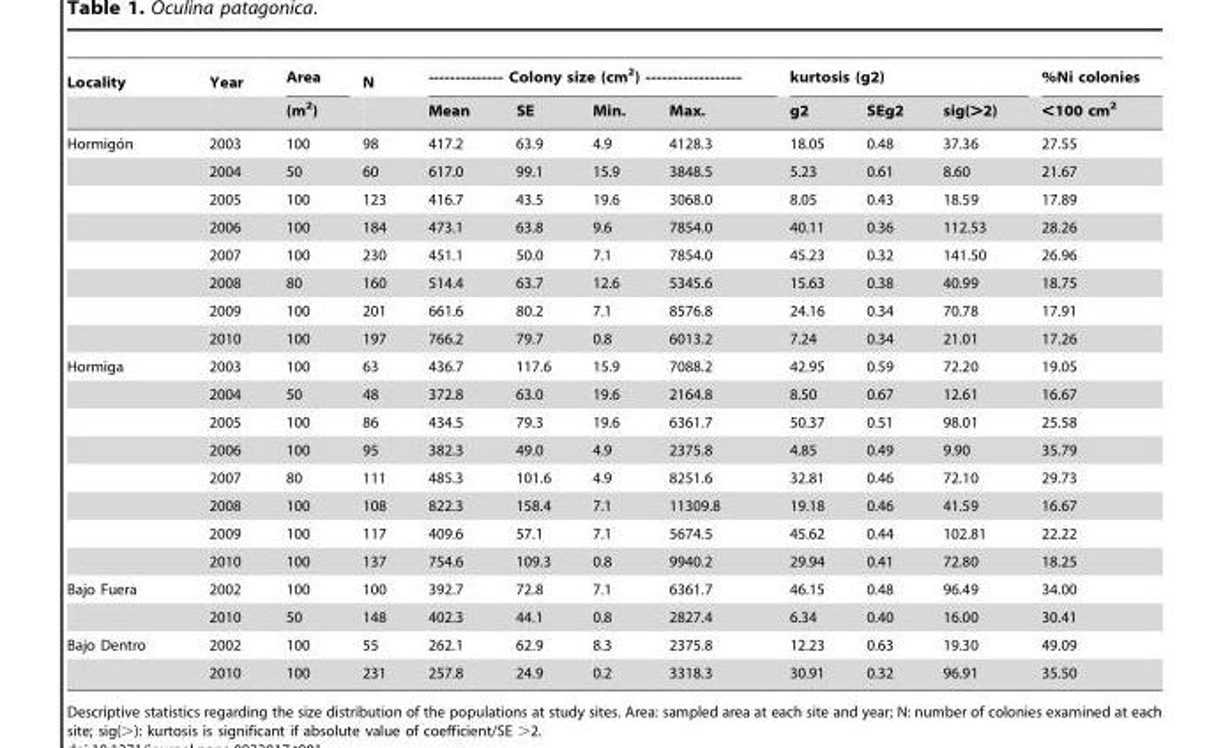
<table><thead><tr><td rowspan="2">Locality</td><td rowspan="2">Year</td><td rowspan="2">Area (m<sup>2</sup>)</td><td rowspan="2">N</td><td colspan="4">-------------- Colony size (cm<sup>2</sup>) ------------------</td><td colspan="3">kurtosis (g2)</td><td rowspan="2">%Ni colonies &lt;100 cm<sup>2</sup></td></tr><tr><td>Mean</td><td>SE</td><td>Min.</td><td>Max.</td><td>g2</td><td>SEg2</td><td>sig(&gt;2)</td></tr></thead><tbody><tr><td rowspan="8">Hormigo´n</td><td>2003</td><td>100</td><td>98</td><td>417.2</td><td>63.9</td><td>4.9</td><td>4128.3</td><td>18.05</td><td>0.48</td><td>37.36</td><td>27.55</td></tr><tr><td>2004</td><td>50</td><td>60</td><td>617.0</td><td>99.1</td><td>15.9</td><td>3848.5</td><td>5.23</td><td>0.61</td><td>8.60</td><td>21.67</td></tr><tr><td>2005</td><td>100</td><td>123</td><td>416.7</td><td>43.5</td><td>19.6</td><td>3068.0</td><td>8.05</td><td>0.43</td><td>18.59</td><td>17.89</td></tr><tr><td>2006</td><td>100</td><td>184</td><td>473.1</td><td>63.8</td><td>9.6</td><td>7854.0</td><td>40.11</td><td>0.36</td><td>112.53</td><td>28.26</td></tr><tr><td>2007</td><td>100</td><td>230</td><td>451.1</td><td>50.0</td><td>7.1</td><td>7854.0</td><td>45.23</td><td>0.32</td><td>141.50</td><td>26.96</td></tr><tr><td>2008</td><td>80</td><td>160</td><td>514.4</td><td>63.7</td><td>12.6</td><td>5345.6</td><td>15.63</td><td>0.38</td><td>40.99</td><td>18.75</td></tr><tr><td>2009</td><td>100</td><td>201</td><td>661.6</td><td>80.2</td><td>7.1</td><td>8576.8</td><td>24.16</td><td>0.34</td><td>70.78</td><td>17.91</td></tr><tr><td>2010</td><td>100</td><td>197</td><td>766.2</td><td>79.7</td><td>0.8</td><td>6013.2</td><td>7.24</td><td>0.34</td><td>21.01</td><td>17.26</td></tr><tr><td rowspan="8">Hormiga</td><td>2003</td><td>100</td><td>63</td><td>436.7</td><td>117.6</td><td>15.9</td><td>7088.2</td><td>42.95</td><td>0.59</td><td>72.20</td><td>19.05</td></tr><tr><td>2004</td><td>50</td><td>48</td><td>372.8</td><td>63.0</td><td>19.6</td><td>2164.8</td><td>8.50</td><td>0.67</td><td>12.61</td><td>16.67</td></tr><tr><td>2005</td><td>100</td><td>86</td><td>434.5</td><td>79.3</td><td>19.6</td><td>6361.7</td><td>50.37</td><td>0.51</td><td>98.01</td><td>25.58</td></tr><tr><td>2006</td><td>100</td><td>95</td><td>382.3</td><td>49.0</td><td>4.9</td><td>2375.8</td><td>4.85</td><td>0.49</td><td>9.90</td><td>35.79</td></tr><tr><td>2007</td><td>80</td><td>111</td><td>485.3</td><td>101.6</td><td>4.9</td><td>8251.6</td><td>32.81</td><td>0.46</td><td>72.10</td><td>29.73</td></tr><tr><td>2008</td><td>100</td><td>108</td><td>822.3</td><td>158.4</td><td>7.1</td><td>11309.8</td><td>19.18</td><td>0.46</td><td>41.59</td><td>16.67</td></tr><tr><td>2009</td><td>100</td><td>117</td><td>409.6</td><td>57.1</td><td>7.1</td><td>5674.5</td><td>45.62</td><td>0.44</td><td>102.81</td><td>22.22</td></tr><tr><td>2010</td><td>100</td><td>137</td><td>754.6</td><td>109.3</td><td>0.8</td><td>9940.2</td><td>29.94</td><td>0.41</td><td>72.80</td><td>18.25</td></tr><tr><td rowspan="2">Bajo Fuera</td><td>2002</td><td>100</td><td>100</td><td>392.7</td><td>72.8</td><td>7.1</td><td>6361.7</td><td>46.15</td><td>0.48</td><td>96.49</td><td>34.00</td></tr><tr><td>2010</td><td>50</td><td>148</td><td>402.3</td><td>44.1</td><td>0.8</td><td>2827.4</td><td>6.34</td><td>0.40</td><td>16.00</td><td>30.41</td></tr><tr><td rowspan="2">Bajo Dentro</td><td>2002</td><td>100</td><td>55</td><td>262.1</td><td>62.9</td><td>8.3</td><td>2375.8</td><td>12.23</td><td>0.63</td><td>19.30</td><td>49.09</td></tr><tr><td>2010</td><td>100</td><td>231</td><td>257.8</td><td>24.9</td><td>0.2</td><td>3318.3</td><td>30.91</td><td>0.32</td><td>96.91</td><td>35.50</td></tr></tbody></table>